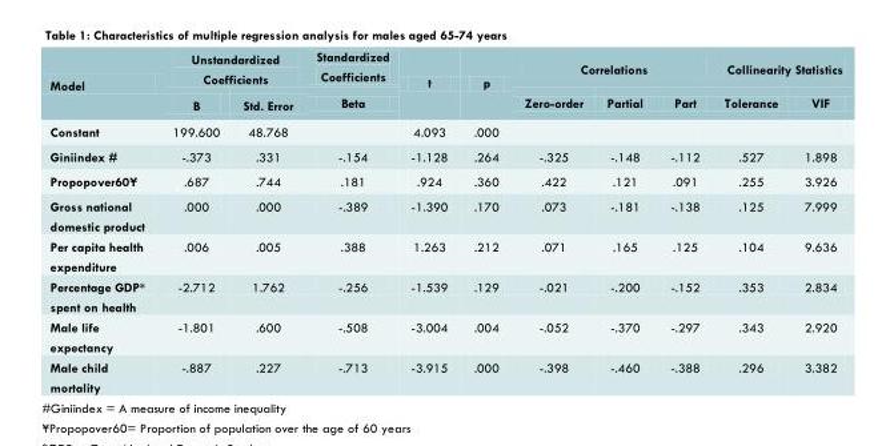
<table><thead><tr><td rowspan="2">Model</td><td colspan="2">Unstandardized Coefficients</td><td rowspan="2">Standardized Coefficients Beta</td><td rowspan="2">t</td><td rowspan="2">p</td><td colspan="3">Correlations</td><td colspan="2">Collinearity Statistics</td></tr><tr><td>B</td><td>Std. Error</td><td>Zero-order</td><td>Partial</td><td>Part</td><td>Tolerance</td><td>VIF</td></tr></thead><tbody><tr><td>Constant</td><td>199.600</td><td>48.768</td><td></td><td>4.093</td><td>.000</td><td></td><td></td><td></td><td></td><td></td></tr><tr><td>Giniindex #</td><td>-.373</td><td>.331</td><td>-.154</td><td>-1.128</td><td>.264</td><td>-.325</td><td>-.148</td><td>-.112</td><td>.527</td><td>1.898</td></tr><tr><td>Propopover60¥</td><td>.687</td><td>.744</td><td>.181</td><td>.924</td><td>.360</td><td>.422</td><td>.121</td><td>.091</td><td>.255</td><td>3.926</td></tr><tr><td>Gross national domestic product</td><td>.000</td><td>.000</td><td>-.389</td><td>-1.390</td><td>.170</td><td>.073</td><td>-.181</td><td>-.138</td><td>.125</td><td>7.999</td></tr><tr><td>Per capita health expenditure</td><td>.006</td><td>.005</td><td>.388</td><td>1.263</td><td>.212</td><td>.071</td><td>.165</td><td>.125</td><td>.104</td><td>9.636</td></tr><tr><td>Percentage GDP* spent on health</td><td>-2.712</td><td>1.762</td><td>-.256</td><td>-1.539</td><td>.129</td><td>-.021</td><td>-.200</td><td>-.152</td><td>.353</td><td>2.834</td></tr><tr><td>Male life expectancy</td><td>-1.801</td><td>.600</td><td>-.508</td><td>-3.004</td><td>.004</td><td>-.052</td><td>-.370</td><td>-.297</td><td>.343</td><td>2.920</td></tr><tr><td>Male child mortality</td><td>-.887</td><td>.227</td><td>-.713</td><td>-3.915</td><td>.000</td><td>-.398</td><td>-.460</td><td>-.388</td><td>.296</td><td>3.382</td></tr></tbody></table>